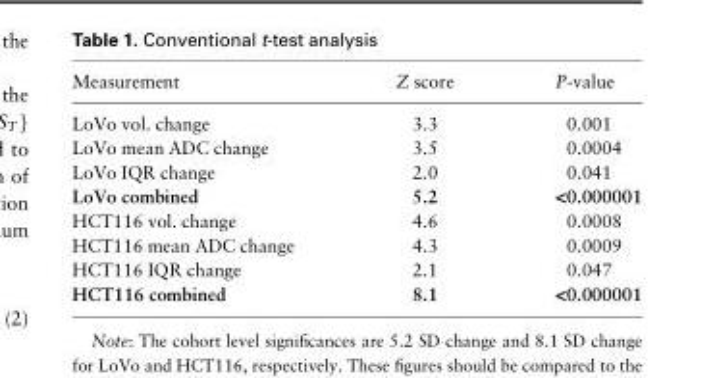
<table><thead><tr><td>Measurement</td><td>Z score</td><td>P-value</td></tr></thead><tbody><tr><td>LoVo vol. change</td><td>3.3</td><td>0.001</td></tr><tr><td>LoVo mean ADC change</td><td>3.5</td><td>0.0004</td></tr><tr><td>LoVo IQR change</td><td>2.0</td><td>0.041</td></tr><tr><td>LoVo combined</td><td>5.2</td><td>&lt;0.000001</td></tr><tr><td>HCT116 vol. change</td><td>4.6</td><td>0.0008</td></tr><tr><td>HCT116 mean ADC change</td><td>4.3</td><td>0.0009</td></tr><tr><td>HCT116 IQR change</td><td>2.1</td><td>0.047</td></tr><tr><td>HCT116 combined</td><td>8.1</td><td>&lt;0.000001</td></tr></tbody></table>